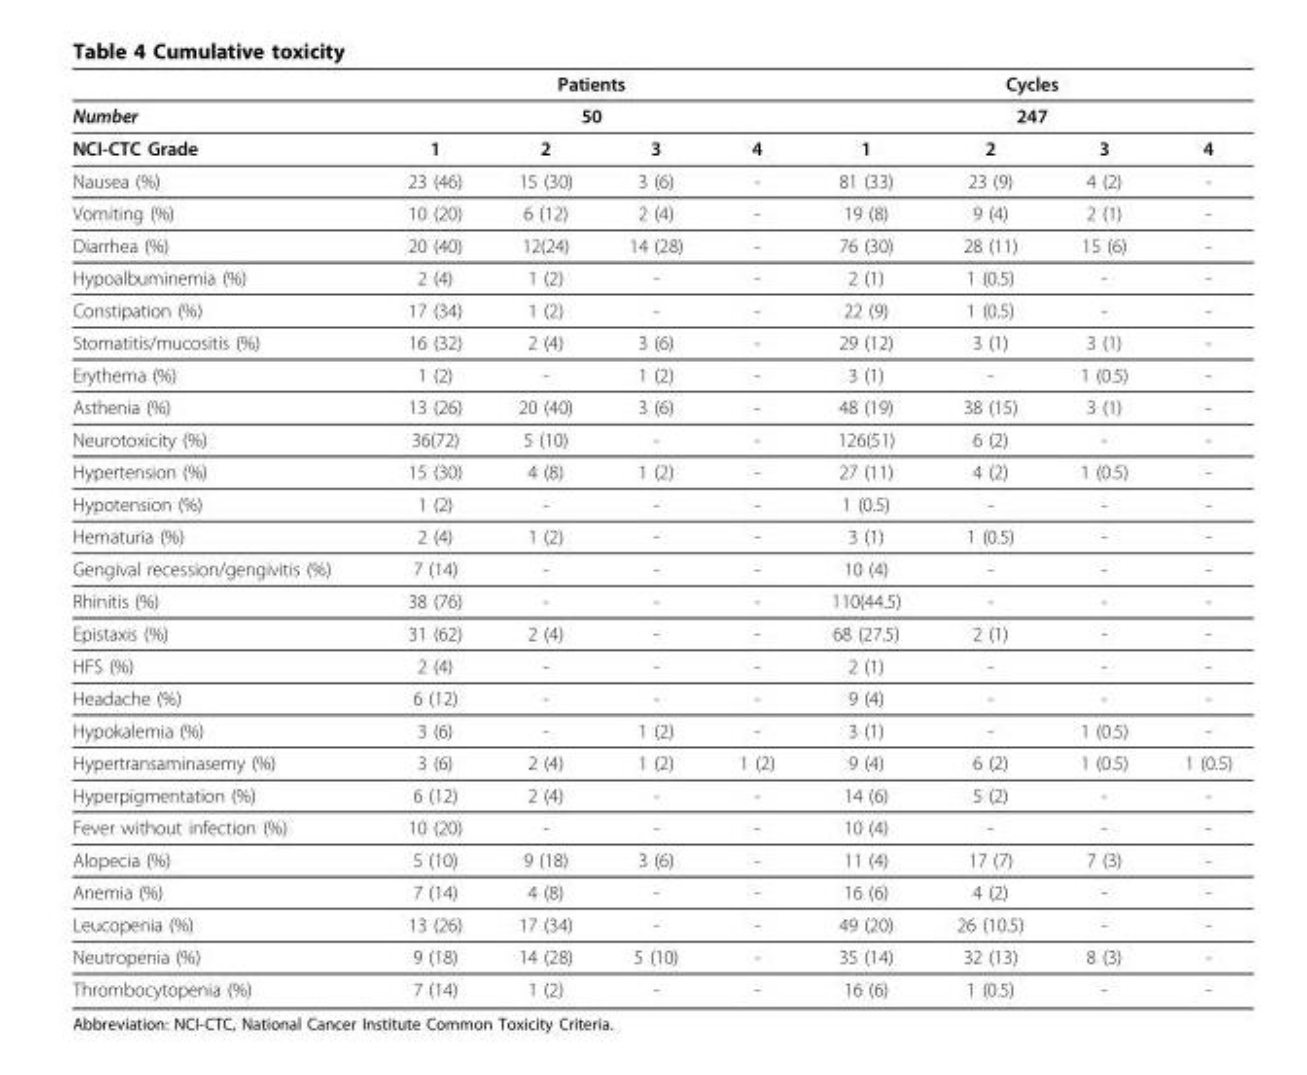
<table><thead><tr><td rowspan="3">Number NCI-CTC Grade</td><td rowspan="2" colspan="4">Patients 50</td><td rowspan="2" colspan="4">Cycles 247</td></tr><tr></tr><tr><td>1</td><td>2</td><td>3</td><td>4</td><td>1</td><td>2</td><td>3</td><td>4</td></tr></thead><tbody><tr><td>Nausea (%)</td><td>23 (46)</td><td>15 (30)</td><td>3 (6)</td><td>-</td><td>81 (33)</td><td>23 (9)</td><td>4 (2)</td><td>-</td></tr><tr><td>Vomiting (%)</td><td>10 (20)</td><td>6 (12)</td><td>2 (4)</td><td>-</td><td>19 (8)</td><td>9 (4)</td><td>2 (1)</td><td>-</td></tr><tr><td>Diarrhea (%)</td><td>20 (40)</td><td>12(24)</td><td>14 (28)</td><td>-</td><td>76 (30)</td><td>28 (11)</td><td>15 (6)</td><td>-</td></tr><tr><td>Hypoalbuminemia (%)</td><td>2 (4)</td><td>1 (2)</td><td>-</td><td>-</td><td>2 (1)</td><td>1 (0.5)</td><td>-</td><td>-</td></tr><tr><td>Constipation (%)</td><td>17 (34)</td><td>1 (2)</td><td>-</td><td>-</td><td>22 (9)</td><td>1 (0.5)</td><td>-</td><td>-</td></tr><tr><td>Stomatitis/mucositis (%)</td><td>16 (32)</td><td>2 (4)</td><td>3 (6)</td><td>-</td><td>29 (12)</td><td>3 (1)</td><td>3 (1)</td><td>-</td></tr><tr><td>Erythema (%)</td><td>1 (2)</td><td>-</td><td>1 (2)</td><td>-</td><td>3 (1)</td><td>-</td><td>1 (0.5)</td><td>-</td></tr><tr><td>Asthenia (%)</td><td>13 (26)</td><td>20 (40)</td><td>3 (6)</td><td>-</td><td>48 (19)</td><td>38 (15)</td><td>3 (1)</td><td>-</td></tr><tr><td>Neurotoxicity (%)</td><td>36(72)</td><td>5 (10)</td><td>-</td><td>-</td><td>126(51)</td><td>6 (2)</td><td>-</td><td>-</td></tr><tr><td>Hypertension (%)</td><td>15 (30)</td><td>4 (8)</td><td>1 (2)</td><td>-</td><td>27 (11)</td><td>4 (2)</td><td>1 (0.5)</td><td>-</td></tr><tr><td>Hypotension (%)</td><td>1 (2)</td><td>-</td><td>-</td><td>-</td><td>1 (0.5)</td><td>-</td><td>-</td><td>-</td></tr><tr><td>Hematuria (%)</td><td>2 (4)</td><td>1 (2)</td><td>-</td><td>-</td><td>3 (1)</td><td>1 (0.5)</td><td>-</td><td>-</td></tr><tr><td>Gengival recession/gengivitis (%)</td><td>7 (14)</td><td>-</td><td>-</td><td>-</td><td>10 (4)</td><td>-</td><td>-</td><td>-</td></tr><tr><td>Rhinitis (%)</td><td>38 (76)</td><td>-</td><td>-</td><td>-</td><td>110(44.5)</td><td>-</td><td>-</td><td>-</td></tr><tr><td>Epistaxis (%)</td><td>31 (62)</td><td>2 (4)</td><td>-</td><td>-</td><td>68 (27.5)</td><td>2 (1)</td><td>-</td><td>-</td></tr><tr><td>HFS (%)</td><td>2 (4)</td><td>-</td><td>-</td><td>-</td><td>2 (1)</td><td>-</td><td>-</td><td>-</td></tr><tr><td>Headache (%)</td><td>6 (12)</td><td>-</td><td>-</td><td>-</td><td>9 (4)</td><td>-</td><td>-</td><td>-</td></tr><tr><td>Hypokalemia (%)</td><td>3 (6)</td><td>-</td><td>1 (2)</td><td>-</td><td>3 (1)</td><td>-</td><td>1 (0.5)</td><td>-</td></tr><tr><td>Hypertransaminasemy (%)</td><td>3 (6)</td><td>2 (4)</td><td>1 (2)</td><td>1 (2)</td><td>9 (4)</td><td>6 (2)</td><td>1 (0.5)</td><td>1 (0.5)</td></tr><tr><td>Hyperpigmentation (%)</td><td>6 (12)</td><td>2 (4)</td><td>-</td><td>-</td><td>14 (6)</td><td>5 (2)</td><td>-</td><td>-</td></tr><tr><td>Fever without infection (%)</td><td>10 (20)</td><td>-</td><td>-</td><td>-</td><td>10 (4)</td><td>-</td><td>-</td><td>-</td></tr><tr><td>Alopecia (%)</td><td>5 (10)</td><td>9 (18)</td><td>3 (6)</td><td>-</td><td>11 (4)</td><td>17 (7)</td><td>7 (3)</td><td>-</td></tr><tr><td>Anemia (%)</td><td>7 (14)</td><td>4 (8)</td><td>-</td><td>-</td><td>16 (6)</td><td>4 (2)</td><td>-</td><td>-</td></tr><tr><td>Leucopenia (%)</td><td>13 (26)</td><td>17 (34)</td><td>-</td><td>-</td><td>49 (20)</td><td>26 (10.5)</td><td>-</td><td>-</td></tr><tr><td>Neutropenia (%)</td><td>9 (18)</td><td>14 (28)</td><td>5 (10)</td><td>-</td><td>35 (14)</td><td>32 (13)</td><td>8 (3)</td><td>-</td></tr><tr><td>Thrombocytopenia (%)</td><td>7 (14)</td><td>1 (2)</td><td>-</td><td>-</td><td>16 (6)</td><td>1 (0.5)</td><td>-</td><td>-</td></tr></tbody></table>